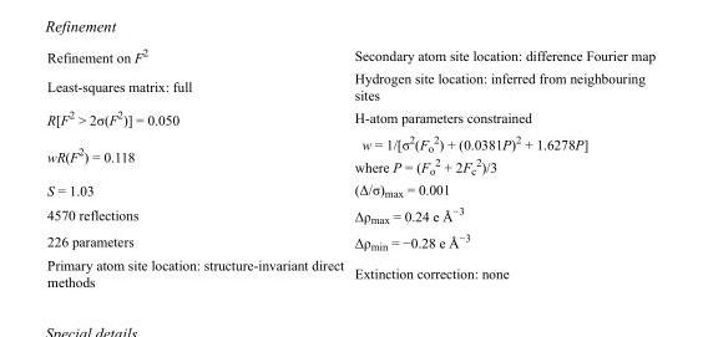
<table><tbody><tr><td>Refinement on F<sup>2</sup></td><td>Secondary atom site location: difference Fourier map</td></tr><tr><td>Least-squares matrix: full</td><td>Hydrogen site location: inferred from neighbouring sites</td></tr><tr><td>R[F<sup>2</sup> &gt; 2σ(F<sup>2</sup>)] = 0.050</td><td>H-atom parameters constrained</td></tr><tr><td>wR(F<sup>2</sup>) = 0.118</td><td>w = 1/[σ<sup>2</sup>(F<sub>o</sub> <sup>2</sup>) + (0.0381P)<sup>2</sup> + 1.6278P] where P = (F<sub>o</sub> <sup>2</sup> + 2F<sub>c</sub> <sup>2</sup>)/3</td></tr><tr><td>S = 1.03</td><td>(Δ/σ)<sub>max</sub> = 0.001</td></tr><tr><td>4570 reflections</td><td>Δρ<sub>max</sub> = 0.24 e Å<sup>−3</sup></td></tr><tr><td>226 parameters</td><td>Δρ<sub>min</sub> = −0.28 e Å<sup>−3</sup></td></tr><tr><td>Primary atom site location: structure-invariant direct methods</td><td>Extinction correction: none</td></tr></tbody></table>